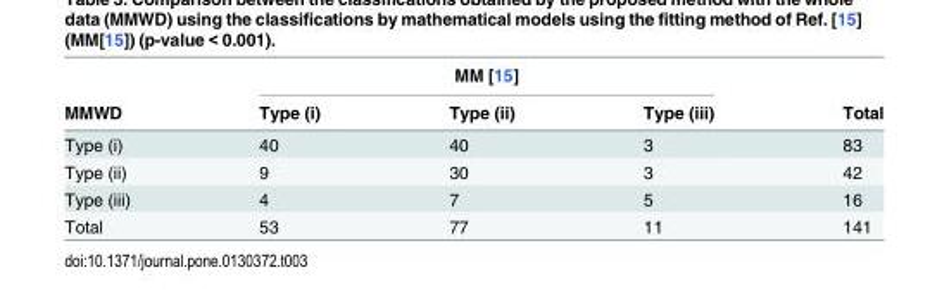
<table><thead><tr><td rowspan="2">MMWD</td><td colspan="3">MM [15]</td><td rowspan="2">Total</td></tr><tr><td>Type (i)</td><td>Type (ii)</td><td>Type (iii)</td></tr></thead><tbody><tr><td>Type (i)</td><td>40</td><td>40</td><td>3</td><td>83</td></tr><tr><td>Type (ii)</td><td>9</td><td>30</td><td>3</td><td>42</td></tr><tr><td>Type (iii)</td><td>4</td><td>7</td><td>5</td><td>16</td></tr><tr><td>Total</td><td>53</td><td>77</td><td>11</td><td>141</td></tr></tbody></table>